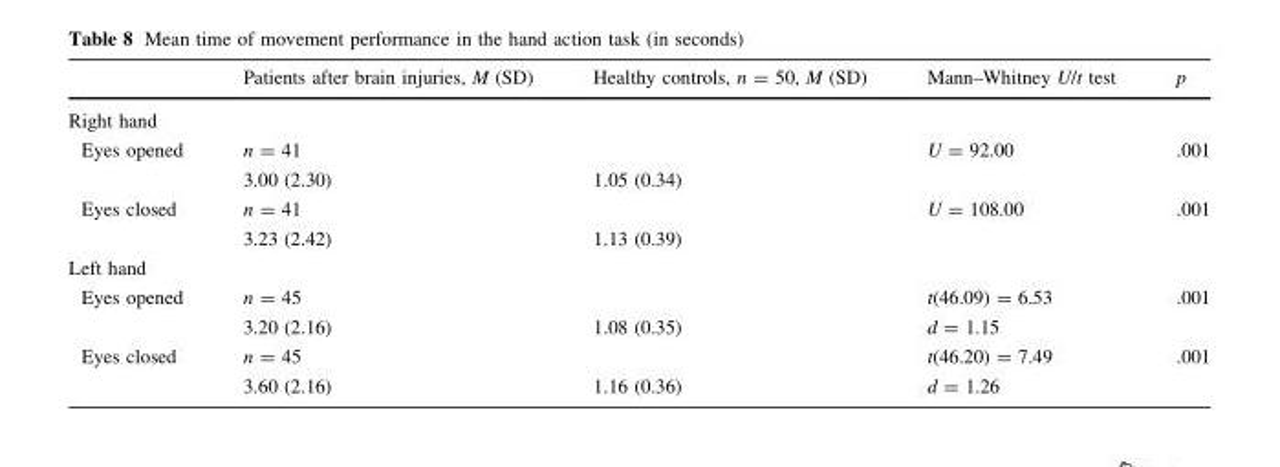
<table><thead><tr><td></td><td>Patients after brain injuries, M (SD)</td><td>Healthy controls, n = 50, M (SD)</td><td>Mann–Whitney U/t test</td><td>p</td></tr></thead><tbody><tr><td colspan="5">Right hand</td></tr><tr><td rowspan="2">Eyes opened</td><td>n = 41</td><td></td><td>U = 92.00</td><td>.001</td></tr><tr><td>3.00 (2.30)</td><td>1.05 (0.34)</td><td></td><td></td></tr><tr><td rowspan="2">Eyes closed</td><td>n = 41</td><td></td><td>U = 108.00</td><td>.001</td></tr><tr><td>3.23 (2.42)</td><td>1.13 (0.39)</td><td></td><td></td></tr><tr><td colspan="5">Left hand</td></tr><tr><td rowspan="2">Eyes opened</td><td>n = 45</td><td></td><td>t(46.09) = 6.53</td><td>.001</td></tr><tr><td>3.20 (2.16)</td><td>1.08 (0.35)</td><td>d = 1.15</td><td></td></tr><tr><td rowspan="2">Eyes closed</td><td>n = 45</td><td></td><td>t(46.20) = 7.49</td><td>.001</td></tr><tr><td>3.60 (2.16)</td><td>1.16 (0.36)</td><td>d = 1.26</td><td></td></tr></tbody></table>